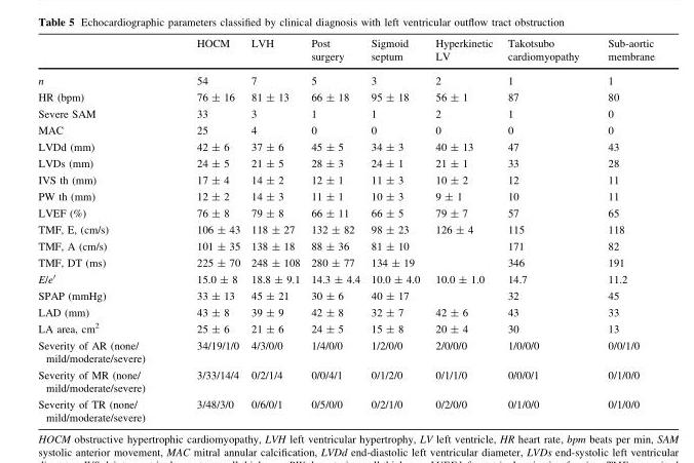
<table><thead><tr><td></td><td>HOCM</td><td>LVH</td><td>Post surgery</td><td>Sigmoid septum</td><td>Hyperkinetic LV</td><td>Takotsubo cardiomyopathy</td><td>Sub-aortic membrane</td></tr></thead><tbody><tr><td>n</td><td>54</td><td>7</td><td>5</td><td>3</td><td>2</td><td>1</td><td>1</td></tr><tr><td>HR (bpm)</td><td>76 ± 16</td><td>81 ± 13</td><td>66 ± 18</td><td>95 ± 18</td><td>56 ± 1</td><td>87</td><td>80</td></tr><tr><td>Severe SAM</td><td>33</td><td>3</td><td>1</td><td>1</td><td>2</td><td>1</td><td>0</td></tr><tr><td>MAC</td><td>25</td><td>4</td><td>0</td><td>0</td><td>0</td><td>0</td><td>0</td></tr><tr><td>LVDd (mm)</td><td>42 ± 6</td><td>37 ± 6</td><td>45 ± 5</td><td>34 ± 3</td><td>40 ± 13</td><td>47</td><td>43</td></tr><tr><td>LVDs (mm)</td><td>24 ± 5</td><td>21 ± 5</td><td>28 ± 3</td><td>24 ± 1</td><td>21 ± 1</td><td>33</td><td>28</td></tr><tr><td>IVS th (mm)</td><td>17 ± 4</td><td>14 ± 2</td><td>12 ± 1</td><td>11 ± 3</td><td>10 ± 2</td><td>12</td><td>11</td></tr><tr><td>PW th (mm)</td><td>12 ± 2</td><td>14 ± 3</td><td>11 ± 1</td><td>10 ± 3</td><td>9 ± 1</td><td>10</td><td>11</td></tr><tr><td>LVEF (%)</td><td>76 ± 8</td><td>79 ± 8</td><td>66 ± 11</td><td>66 ± 5</td><td>79 ± 7</td><td>57</td><td>65</td></tr><tr><td>TMF, E, (cm/s)</td><td>106 ± 43</td><td>118 ± 27</td><td>132 ± 82</td><td>98 ± 23</td><td>126 ± 4</td><td>115</td><td>118</td></tr><tr><td>TMF, A (cm/s)</td><td>101 ± 35</td><td>138 ± 18</td><td>88 ± 36</td><td>81 ± 10</td><td></td><td>171</td><td>82</td></tr><tr><td>TMF, DT (ms)</td><td>225 ± 70</td><td>248 ± 108</td><td>280 ± 77</td><td>134 ± 19</td><td></td><td>346</td><td>191</td></tr><tr><td>E/e′</td><td>15.0 ± 8</td><td>18.8 ± 9.1</td><td>14.3 ± 4.4</td><td>10.0 ± 4.0</td><td>10.0 ± 1.0</td><td>14.7</td><td>11.2</td></tr><tr><td>SPAP (mmHg)</td><td>33 ± 13</td><td>45 ± 21</td><td>30 ± 6</td><td>40 ± 17</td><td></td><td>32</td><td>45</td></tr><tr><td>LAD (mm)</td><td>43 ± 8</td><td>39 ± 9</td><td>42 ± 8</td><td>32 ± 7</td><td>42 ± 6</td><td>43</td><td>33</td></tr><tr><td>LA area, cm<sup>2</sup></td><td>25 ± 6</td><td>21 ± 6</td><td>24 ± 5</td><td>15 ± 8</td><td>20 ± 4</td><td>30</td><td>13</td></tr><tr><td>Severity of AR (none/ mild/moderate/severe)</td><td>34/19/1/0</td><td>4/3/0/0</td><td>1/4/0/0</td><td>1/2/0/0</td><td>2/0/0/0</td><td>1/0/0/0</td><td>0/0/1/0</td></tr><tr><td>Severity of MR (none/ mild/moderate/severe)</td><td>3/33/14/4</td><td>0/2/1/4</td><td>0/0/4/1</td><td>0/1/2/0</td><td>0/1/1/0</td><td>0/0/0/1</td><td>0/1/0/0</td></tr><tr><td>Severity of TR (none/ mild/moderate/severe)</td><td>3/48/3/0</td><td>0/6/0/1</td><td>0/5/0/0</td><td>0/2/1/0</td><td>0/2/0/0</td><td>0/1/0/0</td><td>0/1/0/0</td></tr></tbody></table>